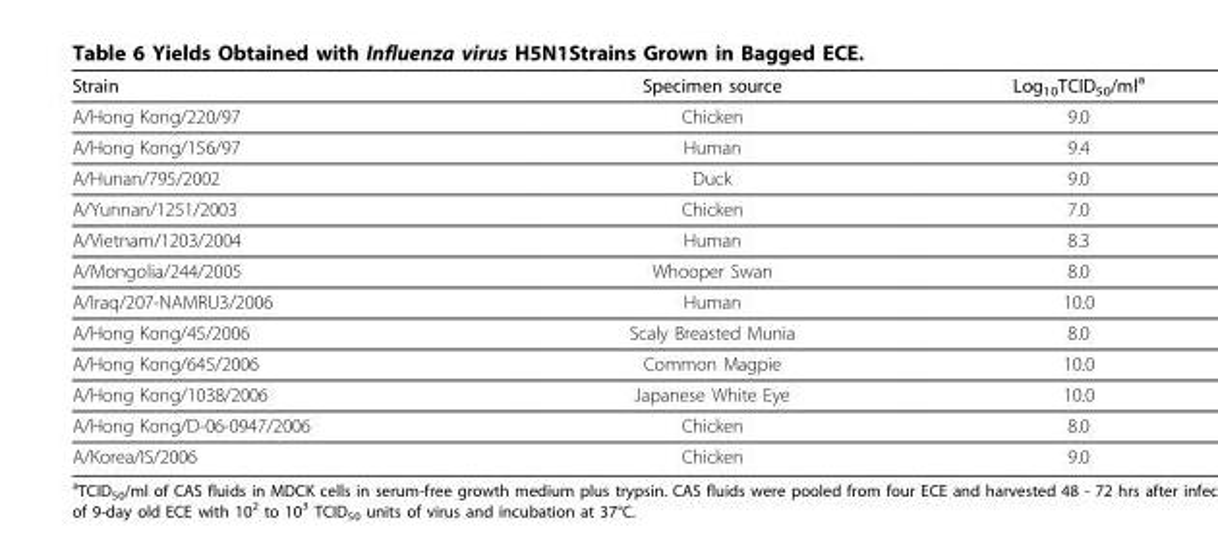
<table><thead><tr><td>Strain</td><td>Specimen source</td><td>Log<sub>10</sub>TCID<sub>50</sub>/ml<sup>a</sup></td></tr></thead><tbody><tr><td>A/Hong Kong/220/97</td><td>Chicken</td><td>9.0</td></tr><tr><td>A/Hong Kong/156/97</td><td>Human</td><td>9.4</td></tr><tr><td>A/Hunan/795/2002</td><td>Duck</td><td>9.0</td></tr><tr><td>A/Yunnan/1251/2003</td><td>Chicken</td><td>7.0</td></tr><tr><td>A/Vietnam/1203/2004</td><td>Human</td><td>8.3</td></tr><tr><td>A/Mongolia/244/2005</td><td>Whooper Swan</td><td>8.0</td></tr><tr><td>A/Iraq/207-NAMRU3/2006</td><td>Human</td><td>10.0</td></tr><tr><td>A/Hong Kong/45/2006</td><td>Scaly Breasted Munia</td><td>8.0</td></tr><tr><td>A/Hong Kong/645/2006</td><td>Common Magpie</td><td>10.0</td></tr><tr><td>A/Hong Kong/1038/2006</td><td>Japanese White Eye</td><td>10.0</td></tr><tr><td>A/Hong Kong/D-06-0947/2006</td><td>Chicken</td><td>8.0</td></tr><tr><td>A/Korea/IS/2006</td><td>Chicken</td><td>9.0</td></tr></tbody></table>